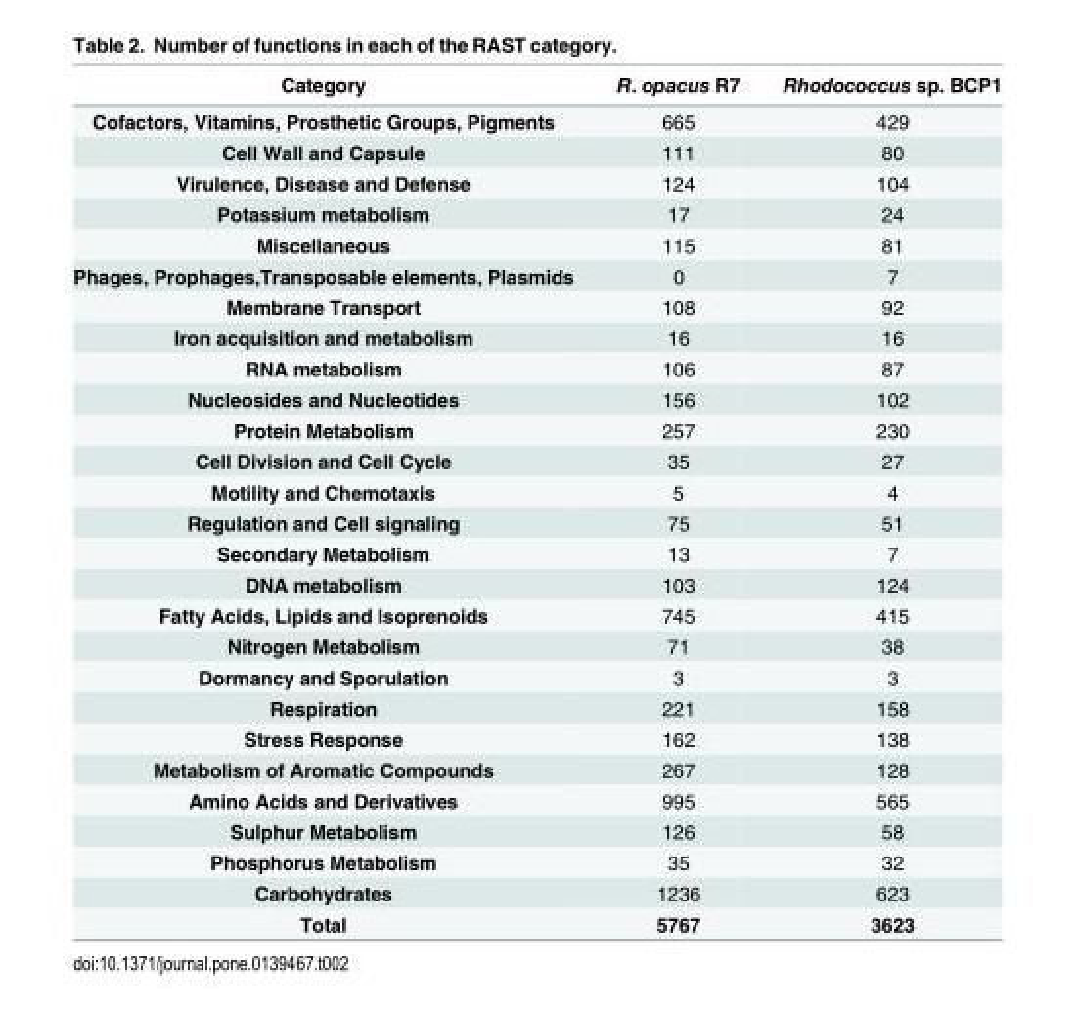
<table><thead><tr><td>Category</td><td>R. opacus R7</td><td>Rhodococcus sp. BCP1</td></tr></thead><tbody><tr><td>Cofactors, Vitamins, Prosthetic Groups, Pigments</td><td>665</td><td>429</td></tr><tr><td>Cell Wall and Capsule</td><td>111</td><td>80</td></tr><tr><td>Virulence, Disease and Defense</td><td>124</td><td>104</td></tr><tr><td>Potassium metabolism</td><td>17</td><td>24</td></tr><tr><td>Miscellaneous</td><td>115</td><td>81</td></tr><tr><td>Phages, Prophages,Transposable elements, Plasmids</td><td>0</td><td>7</td></tr><tr><td>Membrane Transport</td><td>108</td><td>92</td></tr><tr><td>Iron acquisition and metabolism</td><td>16</td><td>16</td></tr><tr><td>RNA metabolism</td><td>106</td><td>87</td></tr><tr><td>Nucleosides and Nucleotides</td><td>156</td><td>102</td></tr><tr><td>Protein Metabolism</td><td>257</td><td>230</td></tr><tr><td>Cell Division and Cell Cycle</td><td>35</td><td>27</td></tr><tr><td>Motility and Chemotaxis</td><td>5</td><td>4</td></tr><tr><td>Regulation and Cell signaling</td><td>75</td><td>51</td></tr><tr><td>Secondary Metabolism</td><td>13</td><td>7</td></tr><tr><td>DNA metabolism</td><td>103</td><td>124</td></tr><tr><td>Fatty Acids, Lipids and Isoprenoids</td><td>745</td><td>415</td></tr><tr><td>Nitrogen Metabolism</td><td>71</td><td>38</td></tr><tr><td>Dormancy and Sporulation</td><td>3</td><td>3</td></tr><tr><td>Respiration</td><td>221</td><td>158</td></tr><tr><td>Stress Response</td><td>162</td><td>138</td></tr><tr><td>Metabolism of Aromatic Compounds</td><td>267</td><td>128</td></tr><tr><td>Amino Acids and Derivatives</td><td>995</td><td>565</td></tr><tr><td>Sulphur Metabolism</td><td>126</td><td>58</td></tr><tr><td>Phosphorus Metabolism</td><td>35</td><td>32</td></tr><tr><td>Carbohydrates</td><td>1236</td><td>623</td></tr><tr><td>Total</td><td>5767</td><td>3623</td></tr></tbody></table>